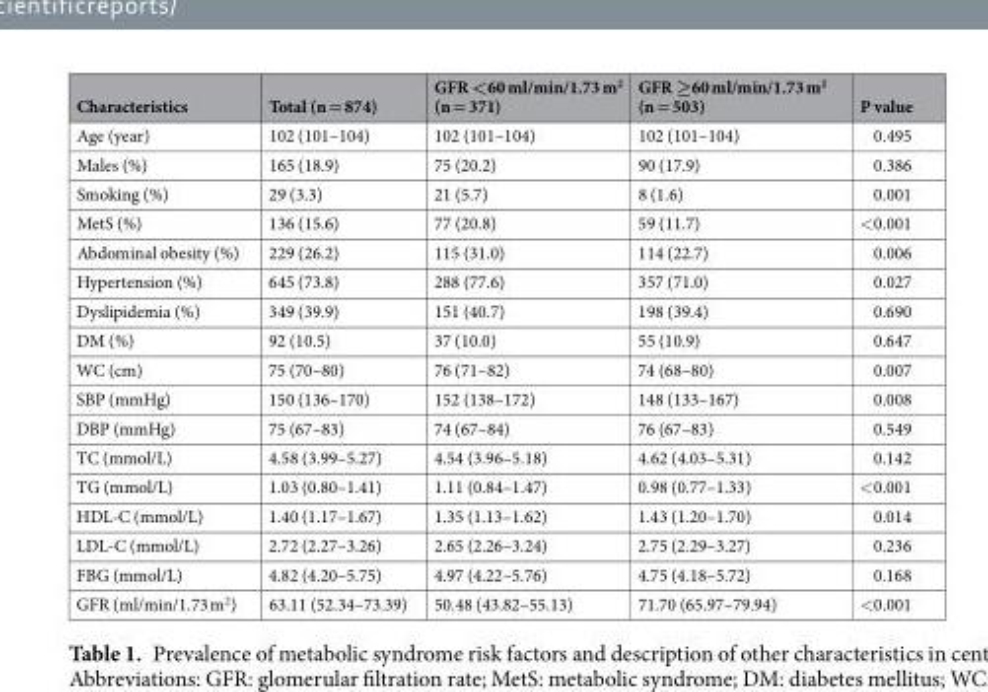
<table><thead><tr><td>Characteristics</td><td>Total (n = 874)</td><td>GFR &lt;60 ml/min/1.73 m<sup>2</sup> (n = 371)</td><td>GFR ≥60 ml/min/1.73 m<sup>2</sup> (n = 503)</td><td>P value</td></tr></thead><tbody><tr><td>Age (year)</td><td>102 (101–104)</td><td>102 (101–104)</td><td>102 (101–104)</td><td>0.495</td></tr><tr><td>Males (%)</td><td>165 (18.9)</td><td>75 (20.2)</td><td>90 (17.9)</td><td>0.386</td></tr><tr><td>Smoking (%)</td><td>29 (3.3)</td><td>21 (5.7)</td><td>8 (1.6)</td><td>0.001</td></tr><tr><td>MetS (%)</td><td>136 (15.6)</td><td>77 (20.8)</td><td>59 (11.7)</td><td>&lt;0.001</td></tr><tr><td>Abdominal obesity (%)</td><td>229 (26.2)</td><td>115 (31.0)</td><td>114 (22.7)</td><td>0.006</td></tr><tr><td>Hypertension (%)</td><td>645 (73.8)</td><td>288 (77.6)</td><td>357 (71.0)</td><td>0.027</td></tr><tr><td>Dyslipidemia (%)</td><td>349 (39.9)</td><td>151 (40.7)</td><td>198 (39.4)</td><td>0.690</td></tr><tr><td>DM (%)</td><td>92 (10.5)</td><td>37 (10.0)</td><td>55 (10.9)</td><td>0.647</td></tr><tr><td>WC (cm)</td><td>75 (70–80)</td><td>76 (71–82)</td><td>74 (68–80)</td><td>0.007</td></tr><tr><td>SBP (mmHg)</td><td>150 (136–170)</td><td>152 (138–172)</td><td>148 (133–167)</td><td>0.008</td></tr><tr><td>DBP (mmHg)</td><td>75 (67–83)</td><td>74 (67–84)</td><td>76 (67–83)</td><td>0.549</td></tr><tr><td>TC (mmol/L)</td><td>4.58 (3.99–5.27)</td><td>4.54 (3.96–5.18)</td><td>4.62 (4.03–5.31)</td><td>0.142</td></tr><tr><td>TG (mmol/L)</td><td>1.03 (0.80–1.41)</td><td>1.11 (0.84–1.47)</td><td>0.98 (0.77–1.33)</td><td>&lt;0.001</td></tr><tr><td>HDL-C (mmol/L)</td><td>1.40 (1.17–1.67)</td><td>1.35 (1.13–1.62)</td><td>1.43 (1.20–1.70)</td><td>0.014</td></tr><tr><td>LDL-C (mmol/L)</td><td>2.72 (2.27–3.26)</td><td>2.65 (2.26–3.24)</td><td>2.75 (2.29–3.27)</td><td>0.236</td></tr><tr><td>FBG (mmol/L)</td><td>4.82 (4.20–5.75)</td><td>4.97 (4.22–5.76)</td><td>4.75 (4.18–5.72)</td><td>0.168</td></tr><tr><td>GFR (ml/min/1.73 m<sup>2</sup>)</td><td>63.11 (52.34–73.39)</td><td>50.48 (43.82–55.13)</td><td>71.70 (65.97–79.94)</td><td>&lt;0.001</td></tr></tbody></table>